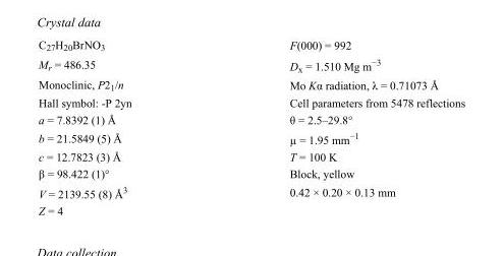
<table><tbody><tr><td>C<sub>27</sub>H<sub>20</sub>BrNO<sub>3</sub></td><td>F(000) = 992</td></tr><tr><td>M<sub>r</sub> = 486.35</td><td>D<sub>x</sub> = 1.510 Mg m<sup>−3</sup></td></tr><tr><td>Monoclinic, P2<sub>1</sub>/n</td><td>Mo Kα radiation, λ = 0.71073 Å</td></tr><tr><td>Hall symbol: -P 2yn</td><td>Cell parameters from 5478 reflections</td></tr><tr><td>a = 7.8392 (1) Å</td><td>θ = 2.5–29.8°</td></tr><tr><td>b = 21.5849 (5) Å</td><td>µ = 1.95 mm<sup>−1</sup></td></tr><tr><td>c = 12.7823 (3) Å</td><td>T = 100 K</td></tr><tr><td>β = 98.422 (1)°</td><td>Block, yellow</td></tr><tr><td>V = 2139.55 (8) Å<sup>3</sup></td><td>0.42 × 0.20 × 0.13 mm</td></tr><tr><td>Z = 4</td><td></td></tr></tbody></table>